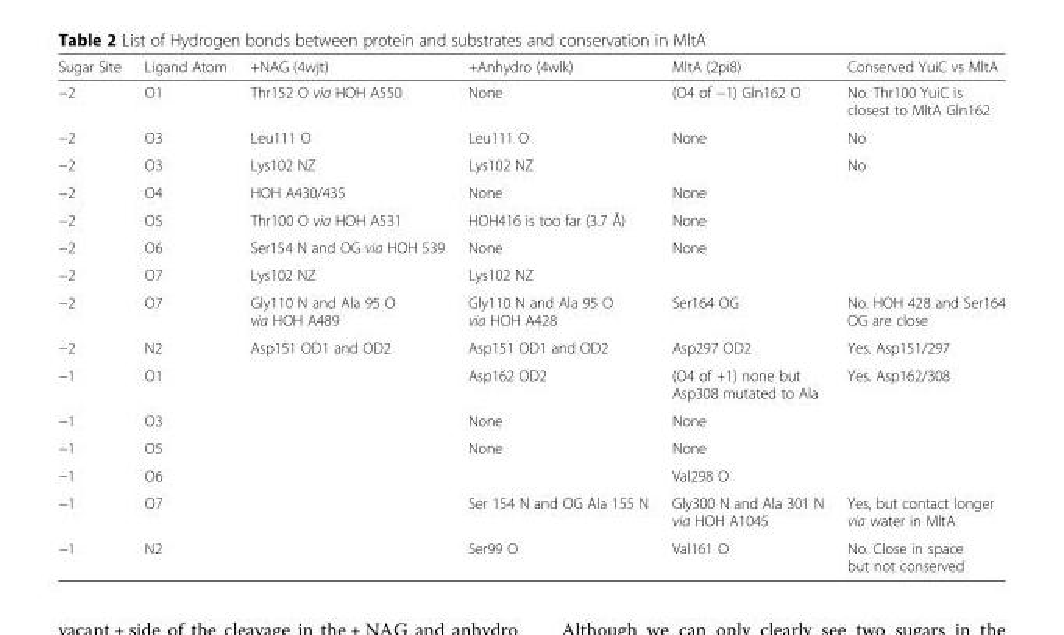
<table><thead><tr><td>Sugar Site</td><td>Ligand Atom</td><td>+NAG (4wjt)</td><td>+Anhydro (4wlk)</td><td>MltA (2pi8)</td><td>Conserved YuiC vs MltA</td></tr></thead><tbody><tr><td>−2</td><td>O1</td><td>Thr152 O via HOH A550</td><td>None</td><td>(O4 of −1) Gln162 O</td><td>No. Thr100 YuiC is closest to MltA Gln162</td></tr><tr><td>−2</td><td>O3</td><td>Leu111 O</td><td>Leu111 O</td><td>None</td><td>No</td></tr><tr><td>−2</td><td>O3</td><td>Lys102 NZ</td><td>Lys102 NZ</td><td></td><td>No</td></tr><tr><td>−2</td><td>O4</td><td>HOH A430/435</td><td>None</td><td>None</td><td></td></tr><tr><td>−2</td><td>O5</td><td>Thr100 O via HOH A531</td><td>HOH416 is too far (3.7 Å)</td><td>None</td><td></td></tr><tr><td>−2</td><td>O6</td><td>Ser154 N and OG via HOH 539</td><td>None</td><td>None</td><td></td></tr><tr><td>−2</td><td>O7</td><td>Lys102 NZ</td><td>Lys102 NZ</td><td></td><td></td></tr><tr><td>−2</td><td>O7</td><td>Gly110 N and Ala 95 O via HOH A489</td><td>Gly110 N and Ala 95 O via HOH A428</td><td>Ser164 OG</td><td>No. HOH 428 and Ser164 OG are close</td></tr><tr><td>−2</td><td>N2</td><td>Asp151 OD1 and OD2</td><td>Asp151 OD1 and OD2</td><td>Asp297 OD2</td><td>Yes. Asp151/297</td></tr><tr><td>−1</td><td>O1</td><td></td><td>Asp162 OD2</td><td>(O4 of +1) none but Asp308 mutated to Ala</td><td>Yes. Asp162/308</td></tr><tr><td>−1</td><td>O3</td><td></td><td>None</td><td>None</td><td></td></tr><tr><td>−1</td><td>O5</td><td></td><td>None</td><td>None</td><td></td></tr><tr><td>−1</td><td>O6</td><td></td><td></td><td>Val298 O</td><td></td></tr><tr><td>−1</td><td>O7</td><td></td><td>Ser 154 N and OG Ala 155 N</td><td>Gly300 N and Ala 301 N via HOH A1045</td><td>Yes, but contact longer via water in MltA</td></tr><tr><td>−1</td><td>N2</td><td></td><td>Ser99 O</td><td>Val161 O</td><td>No. Close in space but not conserved</td></tr></tbody></table>